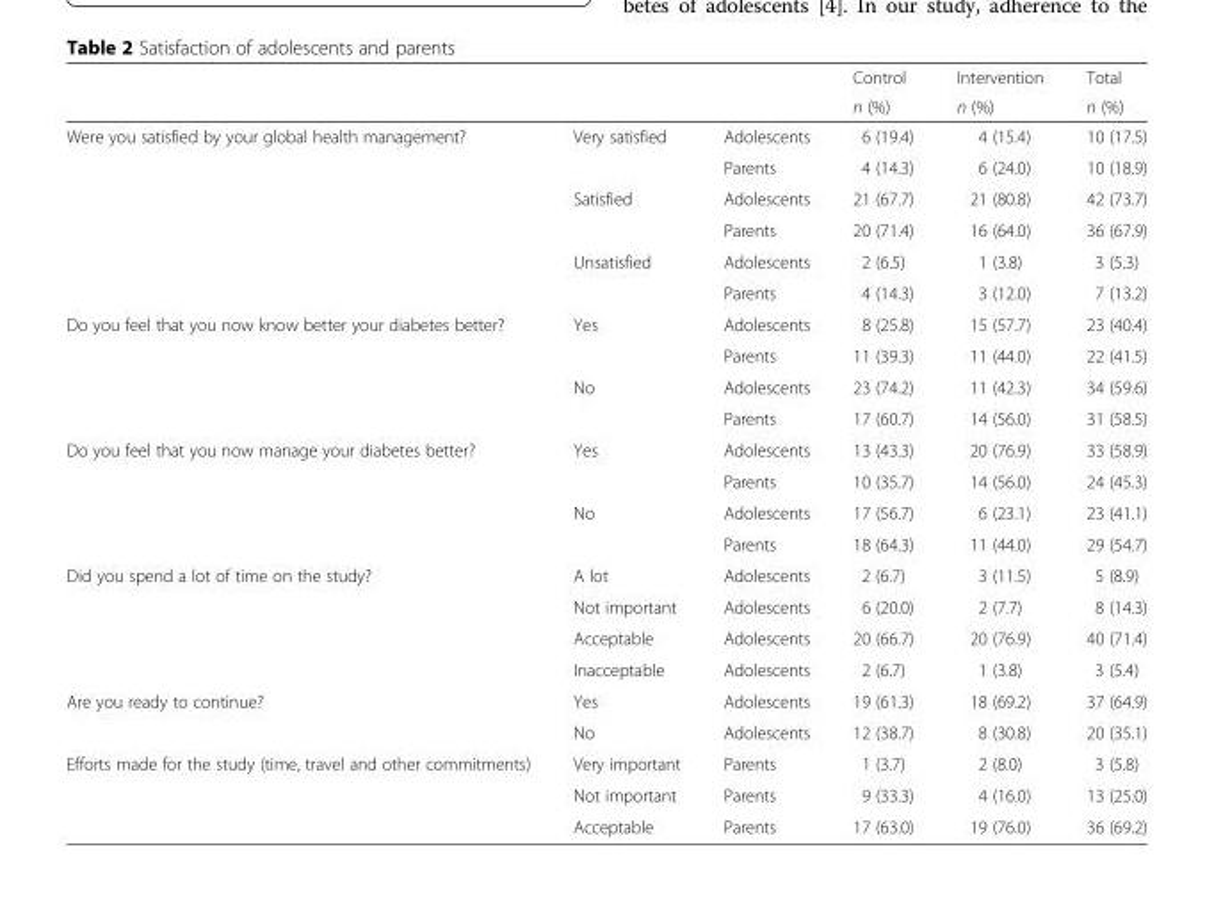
<table><thead><tr><td rowspan="2"></td><td rowspan="2"></td><td rowspan="2"></td><td rowspan="2">Control n (%)</td><td rowspan="2">Intervention n (%)</td><td rowspan="2">Total n (%)</td></tr><tr></tr></thead><tbody><tr><td rowspan="6">Were you satisfied by your global health management?</td><td rowspan="2">Very satisfied</td><td>Adolescents</td><td>6 (19.4)</td><td>4 (15.4)</td><td>10 (17.5)</td></tr><tr><td>Parents</td><td>4 (14.3)</td><td>6 (24.0)</td><td>10 (18.9)</td></tr><tr><td rowspan="2">Satisfied</td><td>Adolescents</td><td>21 (67.7)</td><td>21 (80.8)</td><td>42 (73.7)</td></tr><tr><td>Parents</td><td>20 (71.4)</td><td>16 (64.0)</td><td>36 (67.9)</td></tr><tr><td rowspan="2">Unsatisfied</td><td>Adolescents</td><td>2 (6.5)</td><td>1 (3.8)</td><td>3 (5.3)</td></tr><tr><td>Parents</td><td>4 (14.3)</td><td>3 (12.0)</td><td>7 (13.2)</td></tr><tr><td rowspan="4">Do you feel that you now know better your diabetes better?</td><td rowspan="2">Yes</td><td>Adolescents</td><td>8 (25.8)</td><td>15 (57.7)</td><td>23 (40.4)</td></tr><tr><td>Parents</td><td>11 (39.3)</td><td>11 (44.0)</td><td>22 (41.5)</td></tr><tr><td rowspan="2">No</td><td>Adolescents</td><td>23 (74.2)</td><td>11 (42.3)</td><td>34 (59.6)</td></tr><tr><td>Parents</td><td>17 (60.7)</td><td>14 (56.0)</td><td>31 (58.5)</td></tr><tr><td rowspan="4">Do you feel that you now manage your diabetes better?</td><td rowspan="2">Yes</td><td>Adolescents</td><td>13 (43.3)</td><td>20 (76.9)</td><td>33 (58.9)</td></tr><tr><td>Parents</td><td>10 (35.7)</td><td>14 (56.0)</td><td>24 (45.3)</td></tr><tr><td rowspan="2">No</td><td>Adolescents</td><td>17 (56.7)</td><td>6 (23.1)</td><td>23 (41.1)</td></tr><tr><td>Parents</td><td>18 (64.3)</td><td>11 (44.0)</td><td>29 (54.7)</td></tr><tr><td rowspan="4">Did you spend a lot of time on the study?</td><td>A lot</td><td>Adolescents</td><td>2 (6.7)</td><td>3 (11.5)</td><td>5 (8.9)</td></tr><tr><td>Not important</td><td>Adolescents</td><td>6 (20.0)</td><td>2 (7.7)</td><td>8 (14.3)</td></tr><tr><td>Acceptable</td><td>Adolescents</td><td>20 (66.7)</td><td>20 (76.9)</td><td>40 (71.4)</td></tr><tr><td>Inacceptable</td><td>Adolescents</td><td>2 (6.7)</td><td>1 (3.8)</td><td>3 (5.4)</td></tr><tr><td rowspan="2">Are you ready to continue?</td><td>Yes</td><td>Adolescents</td><td>19 (61.3)</td><td>18 (69.2)</td><td>37 (64.9)</td></tr><tr><td>No</td><td>Adolescents</td><td>12 (38.7)</td><td>8 (30.8)</td><td>20 (35.1)</td></tr><tr><td rowspan="3">Efforts made for the study (time, travel and other commitments)</td><td>Very important</td><td>Parents</td><td>1 (3.7)</td><td>2 (8.0)</td><td>3 (5.8)</td></tr><tr><td>Not important</td><td>Parents</td><td>9 (33.3)</td><td>4 (16.0)</td><td>13 (25.0)</td></tr><tr><td>Acceptable</td><td>Parents</td><td>17 (63.0)</td><td>19 (76.0)</td><td>36 (69.2)</td></tr></tbody></table>